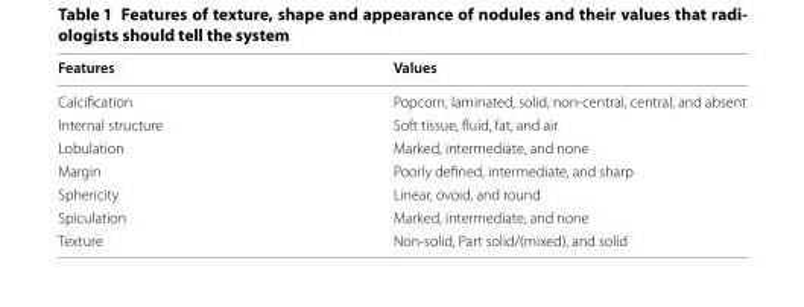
<table><thead><tr><td>Features</td><td>Values</td></tr></thead><tbody><tr><td>Calcification</td><td>Popcorn, laminated, solid, non-central, central, and absent</td></tr><tr><td>Internal structure</td><td>Soft tissue, fluid, fat, and air</td></tr><tr><td>Lobulation</td><td>Marked, intermediate, and none</td></tr><tr><td>Margin</td><td>Poorly defined, intermediate, and sharp</td></tr><tr><td>Sphericity</td><td>Linear, ovoid, and round</td></tr><tr><td>Spiculation</td><td>Marked, intermediate, and none</td></tr><tr><td>Texture</td><td>Non-solid, Part solid/(mixed), and solid</td></tr></tbody></table>